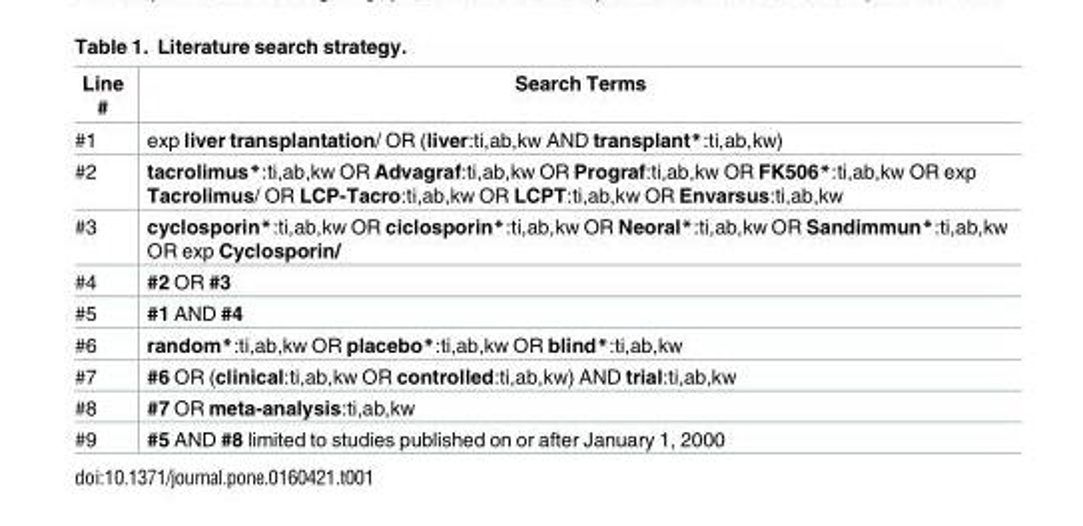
<table><thead><tr><td>Line #</td><td>Search Terms</td></tr></thead><tbody><tr><td>#1</td><td>exp liver transplantation/ OR (liver:ti,ab,kw AND transplant*:ti,ab,kw)</td></tr><tr><td>#2</td><td>tacrolimus*:ti,ab,kw OR Advagraf:ti,ab,kw OR Prograf:ti,ab,kw OR FK506*:ti,ab,kw OR exp Tacrolimus/ OR LCP-Tacro:ti,ab,kw OR LCPT:ti,ab,kw OR Envarsus:ti,ab,kw</td></tr><tr><td>#3</td><td>cyclosporin*:ti,ab,kw OR ciclosporin*:ti,ab,kw OR Neoral*:ti,ab,kw OR Sandimmun*:ti,ab,kw OR exp Cyclosporin/</td></tr><tr><td>#4</td><td>#2 OR #3</td></tr><tr><td>#5</td><td>#1 AND #4</td></tr><tr><td>#6</td><td>random*:ti,ab,kw OR placebo*:ti,ab,kw OR blind*:ti,ab,kw</td></tr><tr><td>#7</td><td>#6 OR (clinical:ti,ab,kw OR controlled:ti,ab,kw) AND trial:ti,ab,kw</td></tr><tr><td>#8</td><td>#7 OR meta-analysis:ti,ab,kw</td></tr><tr><td>#9</td><td>#5 AND #8 limited to studies published on or after January 1, 2000</td></tr></tbody></table>